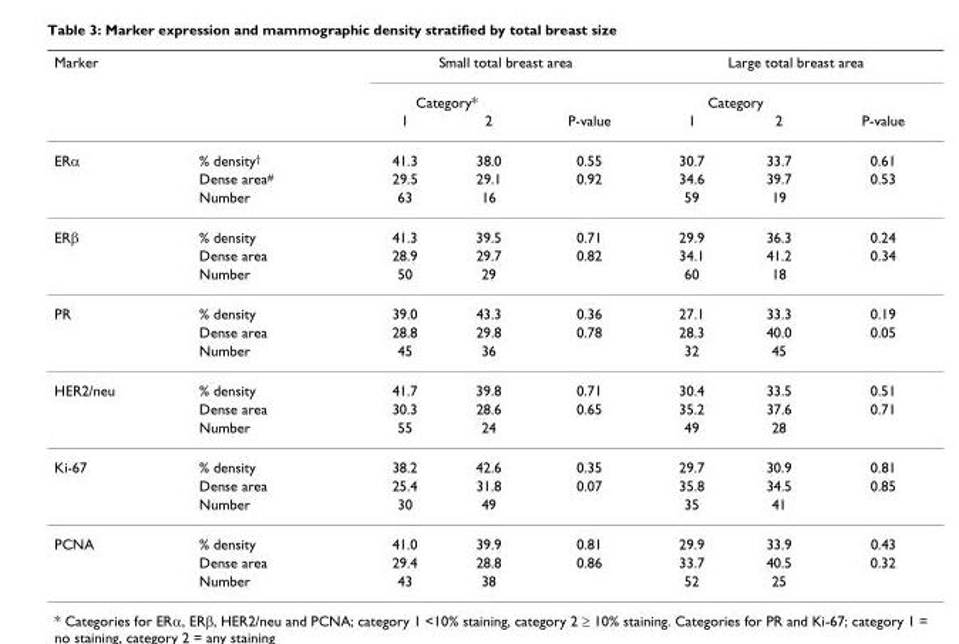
<table><thead><tr><td rowspan="3">Marker</td><td rowspan="3"></td><td colspan="3">Small total breast area</td><td colspan="3">Large total breast area</td></tr><tr><td colspan="2">Category*</td><td rowspan="2">P-value</td><td colspan="2">Category</td><td rowspan="2">P-value</td></tr><tr><td>1</td><td>2</td><td>1</td><td>2</td></tr></thead><tbody><tr><td rowspan="3">ERα</td><td>% density<sup>†</sup></td><td>41.3</td><td>38.0</td><td>0.55</td><td>30.7</td><td>33.7</td><td>0.61</td></tr><tr><td>Dense area<sup>#</sup></td><td>29.5</td><td>29.1</td><td>0.92</td><td>34.6</td><td>39.7</td><td>0.53</td></tr><tr><td>Number</td><td>63</td><td>16</td><td></td><td>59</td><td>19</td><td></td></tr><tr><td rowspan="3">ERβ</td><td>% density</td><td>41.3</td><td>39.5</td><td>0.71</td><td>29.9</td><td>36.3</td><td>0.24</td></tr><tr><td>Dense area</td><td>28.9</td><td>29.7</td><td>0.82</td><td>34.1</td><td>41.2</td><td>0.34</td></tr><tr><td>Number</td><td>50</td><td>29</td><td></td><td>60</td><td>18</td><td></td></tr><tr><td rowspan="3">PR</td><td>% density</td><td>39.0</td><td>43.3</td><td>0.36</td><td>27.1</td><td>33.3</td><td>0.19</td></tr><tr><td>Dense area</td><td>28.8</td><td>29.8</td><td>0.78</td><td>28.3</td><td>40.0</td><td>0.05</td></tr><tr><td>Number</td><td>45</td><td>36</td><td></td><td>32</td><td>45</td><td></td></tr><tr><td rowspan="3">HER2/neu</td><td>% density</td><td>41.7</td><td>39.8</td><td>0.71</td><td>30.4</td><td>33.5</td><td>0.51</td></tr><tr><td>Dense area</td><td>30.3</td><td>28.6</td><td>0.65</td><td>35.2</td><td>37.6</td><td>0.71</td></tr><tr><td>Number</td><td>55</td><td>24</td><td></td><td>49</td><td>28</td><td></td></tr><tr><td rowspan="3">Ki-67</td><td>% density</td><td>38.2</td><td>42.6</td><td>0.35</td><td>29.7</td><td>30.9</td><td>0.81</td></tr><tr><td>Dense area</td><td>25.4</td><td>31.8</td><td>0.07</td><td>35.8</td><td>34.5</td><td>0.85</td></tr><tr><td>Number</td><td>30</td><td>49</td><td></td><td>35</td><td>41</td><td></td></tr><tr><td rowspan="3">PCNA</td><td>% density</td><td>41.0</td><td>39.9</td><td>0.81</td><td>29.9</td><td>33.9</td><td>0.43</td></tr><tr><td>Dense area</td><td>29.4</td><td>28.8</td><td>0.86</td><td>33.7</td><td>40.5</td><td>0.32</td></tr><tr><td>Number</td><td>43</td><td>38</td><td></td><td>52</td><td>25</td><td></td></tr></tbody></table>